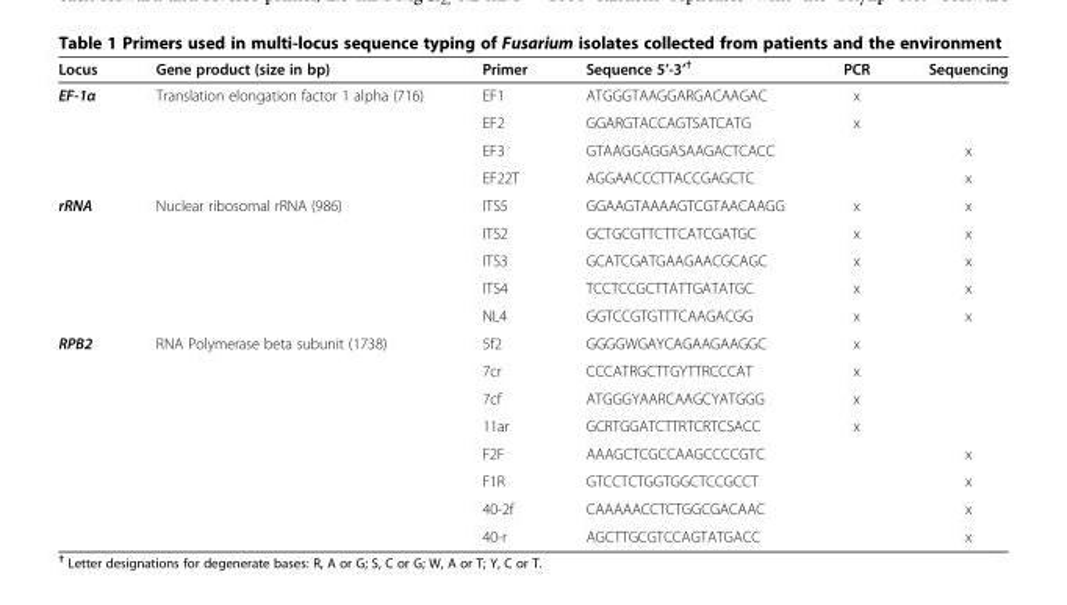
<table><thead><tr><td>Locus</td><td>Gene product (size in bp)</td><td>Primer</td><td>Sequence 5’-3’<sup>†</sup></td><td>PCR</td><td>Sequencing</td></tr></thead><tbody><tr><td rowspan="4">EF-1α</td><td rowspan="4">Translation elongation factor 1 alpha (716)</td><td>EF1</td><td>ATGGGTAAGGARGACAAGAC</td><td>x</td><td></td></tr><tr><td>EF2</td><td>GGARGTACCAGTSATCATG</td><td>x</td><td></td></tr><tr><td>EF3</td><td>GTAAGGAGGASAAGACTCACC</td><td></td><td>x</td></tr><tr><td>EF22T</td><td>AGGAACCCTTACCGAGCTC</td><td></td><td>x</td></tr><tr><td rowspan="5">rRNA</td><td rowspan="5">Nuclear ribosomal rRNA (986)</td><td>ITS5</td><td>GGAAGTAAAAGTCGTAACAAGG</td><td>x</td><td>x</td></tr><tr><td>ITS2</td><td>GCTGCGTTCTTCATCGATGC</td><td>x</td><td>x</td></tr><tr><td>ITS3</td><td>GCATCGATGAAGAACGCAGC</td><td>x</td><td>x</td></tr><tr><td>ITS4</td><td>TCCTCCGCTTATTGATATGC</td><td>x</td><td>x</td></tr><tr><td>NL4</td><td>GGTCCGTGTTTCAAGACGG</td><td>x</td><td>x</td></tr><tr><td rowspan="8">RPB2</td><td rowspan="7">RNA Polymerase beta subunit (1738)</td><td>5f2</td><td>GGGGWGAYCAGAAGAAGGC</td><td>x</td><td></td></tr><tr><td>7cr</td><td>CCCATRGCTTGYTTRCCCAT</td><td>x</td><td></td></tr><tr><td>7cf</td><td>ATGGGYAARCAAGCYATGGG</td><td>x</td><td></td></tr><tr><td>11ar</td><td>GCRTGGATCTTRTCRTCSACC</td><td>x</td><td></td></tr><tr><td>F2F</td><td>AAAGCTCGCCAAGCCCCGTC</td><td></td><td>x</td></tr><tr><td>F1R</td><td>GTCCTCTGGTGGCTCCGCCT</td><td></td><td>x</td></tr><tr><td>40-2f</td><td>CAAAAACCTCTGGCGACAAC</td><td></td><td>x</td></tr><tr><td></td><td>40-r</td><td>AGCTTGCGTCCAGTATGACC</td><td></td><td>x</td></tr></tbody></table>